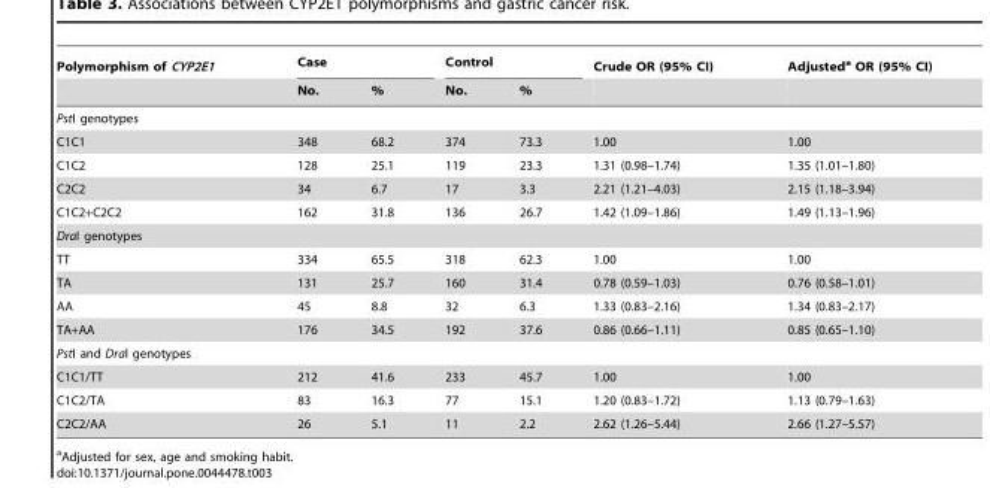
<table><thead><tr><td rowspan="2">Polymorphism of CYP2E1</td><td colspan="2">Case</td><td colspan="2">Control</td><td rowspan="2">Crude OR (95% CI)</td><td rowspan="2">Adjusted<sup>a</sup> OR (95% CI)</td></tr><tr><td>No.</td><td>%</td><td>No.</td><td>%</td></tr></thead><tbody><tr><td colspan="7">PstI genotypes</td></tr><tr><td>C1C1</td><td>348</td><td>68.2</td><td>374</td><td>73.3</td><td>1.00</td><td>1.00</td></tr><tr><td>C1C2</td><td>128</td><td>25.1</td><td>119</td><td>23.3</td><td>1.31 (0.98–1.74)</td><td>1.35 (1.01–1.80)</td></tr><tr><td>C2C2</td><td>34</td><td>6.7</td><td>17</td><td>3.3</td><td>2.21 (1.21–4.03)</td><td>2.15 (1.18–3.94)</td></tr><tr><td>C1C2+C2C2</td><td>162</td><td>31.8</td><td>136</td><td>26.7</td><td>1.42 (1.09–1.86)</td><td>1.49 (1.13–1.96)</td></tr><tr><td colspan="7">DraI genotypes</td></tr><tr><td>TT</td><td>334</td><td>65.5</td><td>318</td><td>62.3</td><td>1.00</td><td>1.00</td></tr><tr><td>TA</td><td>131</td><td>25.7</td><td>160</td><td>31.4</td><td>0.78 (0.59–1.03)</td><td>0.76 (0.58–1.01)</td></tr><tr><td>AA</td><td>45</td><td>8.8</td><td>32</td><td>6.3</td><td>1.33 (0.83–2.16)</td><td>1.34 (0.83–2.17)</td></tr><tr><td>TA+AA</td><td>176</td><td>34.5</td><td>192</td><td>37.6</td><td>0.86 (0.66–1.11)</td><td>0.85 (0.65–1.10)</td></tr><tr><td colspan="7">PstI and DraI genotypes</td></tr><tr><td>C1C1/TT</td><td>212</td><td>41.6</td><td>233</td><td>45.7</td><td>1.00</td><td>1.00</td></tr><tr><td>C1C2/TA</td><td>83</td><td>16.3</td><td>77</td><td>15.1</td><td>1.20 (0.83–1.72)</td><td>1.13 (0.79–1.63)</td></tr><tr><td>C2C2/AA</td><td>26</td><td>5.1</td><td>11</td><td>2.2</td><td>2.62 (1.26–5.44)</td><td>2.66 (1.27–5.57)</td></tr></tbody></table>